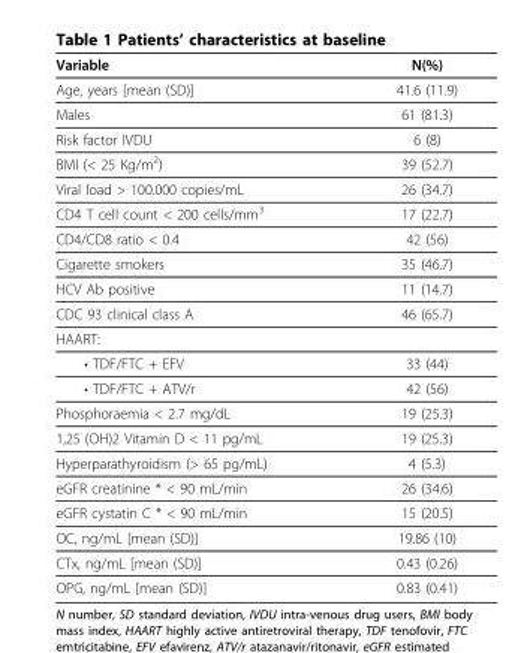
<table><thead><tr><td>Variable</td><td>N(%)</td></tr></thead><tbody><tr><td>Age, years [mean (SD)]</td><td>41.6 (11.9)</td></tr><tr><td>Males</td><td>61 (81.3)</td></tr><tr><td>Risk factor IVDU</td><td>6 (8)</td></tr><tr><td>BMI (&lt; 25 Kg/m<sup>2</sup>)</td><td>39 (52.7)</td></tr><tr><td>Viral load &gt; 100.000 copies/mL</td><td>26 (34.7)</td></tr><tr><td>CD4 T cell count &lt; 200 cells/mm<sup>3</sup></td><td>17 (22.7)</td></tr><tr><td>CD4/CD8 ratio &lt; 0.4</td><td>42 (56)</td></tr><tr><td>Cigarette smokers</td><td>35 (46.7)</td></tr><tr><td>HCV Ab positive</td><td>11 (14.7)</td></tr><tr><td>CDC 93 clinical class A</td><td>46 (65.7)</td></tr><tr><td colspan="2">HAART:</td></tr><tr><td>• TDF/FTC + EFV</td><td>33 (44)</td></tr><tr><td>• TDF/FTC + ATV/r</td><td>42 (56)</td></tr><tr><td>Phosphoraemia &lt; 2.7 mg/dL</td><td>19 (25.3)</td></tr><tr><td>1,25 (OH)2 Vitamin D &lt; 11 pg/mL</td><td>19 (25.3)</td></tr><tr><td>Hyperparathyroidism (&gt; 65 pg/mL)</td><td>4 (5.3)</td></tr><tr><td>eGFR creatinine * &lt; 90 mL/min</td><td>26 (34.6)</td></tr><tr><td>eGFR cystatin C * &lt; 90 mL/min</td><td>15 (20.5)</td></tr><tr><td>OC, ng/mL [mean (SD)]</td><td>19.86 (10)</td></tr><tr><td>CTx, ng/mL [mean (SD)]</td><td>0.43 (0.26)</td></tr><tr><td>OPG, ng/mL [mean (SD)]</td><td>0.83 (0.41)</td></tr></tbody></table>